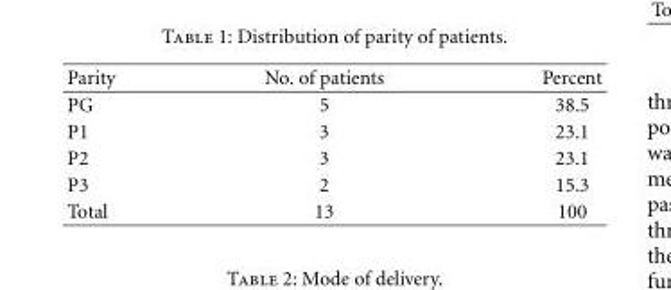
<table><thead><tr><td>Parity</td><td>No. of patients</td><td>Percent</td></tr></thead><tbody><tr><td>PG</td><td>5</td><td>38.5</td></tr><tr><td>P1</td><td>3</td><td>23.1</td></tr><tr><td>P2</td><td>3</td><td>23.1</td></tr><tr><td>P3</td><td>2</td><td>15.3</td></tr><tr><td>Total</td><td>13</td><td>100</td></tr></tbody></table>